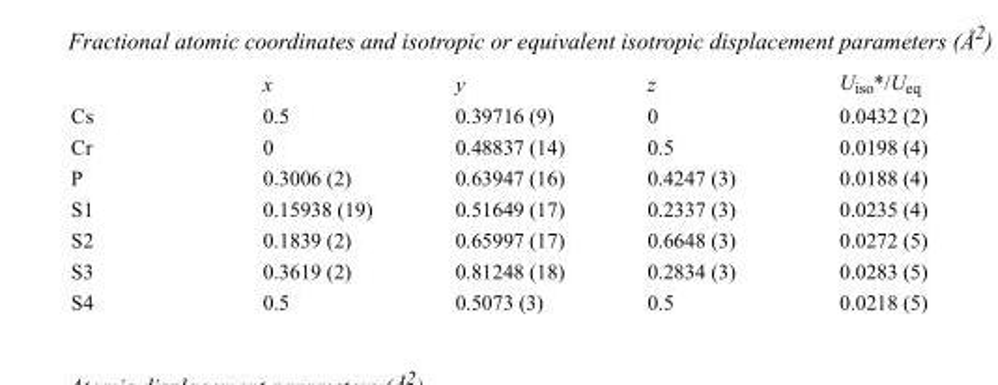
<table><thead><tr><td></td><td>x</td><td>y</td><td>z</td><td>U<sub>iso</sub>*/U<sub>eq</sub></td></tr></thead><tbody><tr><td>Cs</td><td>0.5</td><td>0.39716 (9)</td><td>0</td><td>0.0432 (2)</td></tr><tr><td>Cr</td><td>0</td><td>0.48837 (14)</td><td>0.5</td><td>0.0198 (4)</td></tr><tr><td>P</td><td>0.3006 (2)</td><td>0.63947 (16)</td><td>0.4247 (3)</td><td>0.0188 (4)</td></tr><tr><td>S1</td><td>0.15938 (19)</td><td>0.51649 (17)</td><td>0.2337 (3)</td><td>0.0235 (4)</td></tr><tr><td>S2</td><td>0.1839 (2)</td><td>0.65997 (17)</td><td>0.6648 (3)</td><td>0.0272 (5)</td></tr><tr><td>S3</td><td>0.3619 (2)</td><td>0.81248 (18)</td><td>0.2834 (3)</td><td>0.0283 (5)</td></tr><tr><td>S4</td><td>0.5</td><td>0.5073 (3)</td><td>0.5</td><td>0.0218 (5)</td></tr></tbody></table>